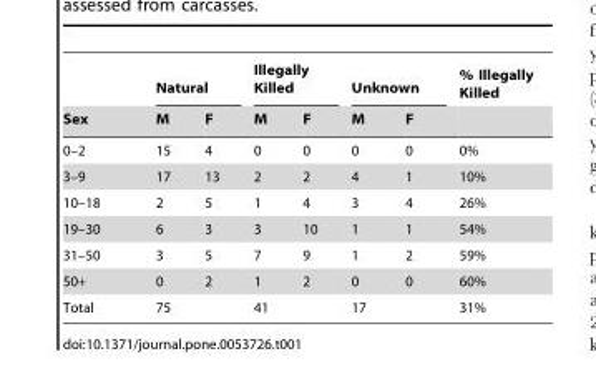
<table><thead><tr><td rowspan="2">Sex</td><td colspan="2">Natural</td><td colspan="2">Illegally Killed</td><td colspan="2">Unknown</td><td rowspan="2">% Illegally Killed</td></tr><tr><td>M</td><td>F</td><td>M</td><td>F</td><td>M</td><td>F</td></tr></thead><tbody><tr><td>0–2</td><td>15</td><td>4</td><td>0</td><td>0</td><td>0</td><td>0</td><td>0%</td></tr><tr><td>3–9</td><td>17</td><td>13</td><td>2</td><td>2</td><td>4</td><td>1</td><td>10%</td></tr><tr><td>10–18</td><td>2</td><td>5</td><td>1</td><td>4</td><td>3</td><td>4</td><td>26%</td></tr><tr><td>19–30</td><td>6</td><td>3</td><td>3</td><td>10</td><td>1</td><td>1</td><td>54%</td></tr><tr><td>31–50</td><td>3</td><td>5</td><td>7</td><td>9</td><td>1</td><td>2</td><td>59%</td></tr><tr><td>50+</td><td>0</td><td>2</td><td>1</td><td>2</td><td>0</td><td>0</td><td>60%</td></tr><tr><td>Total</td><td colspan="2">75</td><td colspan="2">41</td><td colspan="2">17</td><td>31%</td></tr></tbody></table>